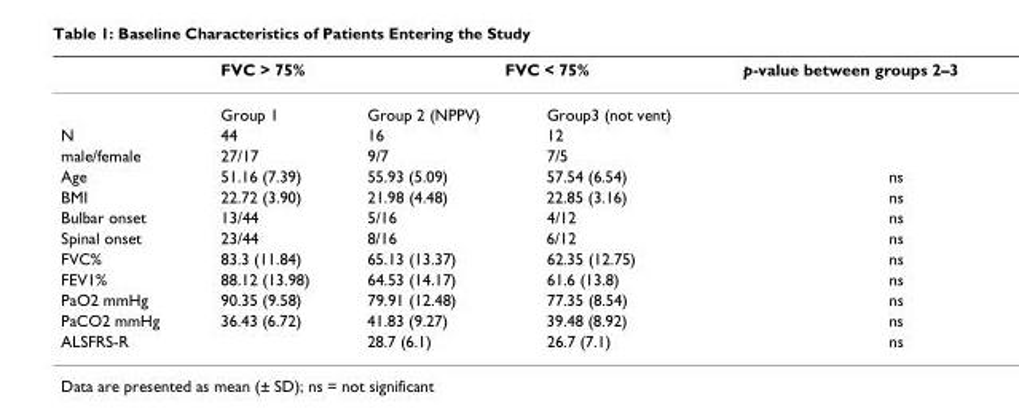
<table><thead><tr><td rowspan="2"></td><td rowspan="2">FVC &gt; 75% Group 1</td><td colspan="2">FVC &lt; 75%</td><td rowspan="2">p-value between groups 2–3</td></tr><tr><td>Group 2 (NPPV)</td><td>Group3 (not vent)</td></tr></thead><tbody><tr><td>N</td><td>44</td><td>16</td><td>12</td><td></td></tr><tr><td>male/female</td><td>27/17</td><td>9/7</td><td>7/5</td><td></td></tr><tr><td>Age</td><td>51.16 (7.39)</td><td>55.93 (5.09)</td><td>57.54 (6.54)</td><td>ns</td></tr><tr><td>BMI</td><td>22.72 (3.90)</td><td>21.98 (4.48)</td><td>22.85 (3.16)</td><td>ns</td></tr><tr><td>Bulbar onset</td><td>13/44</td><td>5/16</td><td>4/12</td><td>ns</td></tr><tr><td>Spinal onset</td><td>23/44</td><td>8/16</td><td>6/12</td><td>ns</td></tr><tr><td>FVC%</td><td>83.3 (11.84)</td><td>65.13 (13.37)</td><td>62.35 (12.75)</td><td>ns</td></tr><tr><td>FEV1%</td><td>88.12 (13.98)</td><td>64.53 (14.17)</td><td>61.6 (13.8)</td><td>ns</td></tr><tr><td>PaO2 mmHg</td><td>90.35 (9.58)</td><td>79.91 (12.48)</td><td>77.35 (8.54)</td><td>ns</td></tr><tr><td>PaCO2 mmHg</td><td>36.43 (6.72)</td><td>41.83 (9.27)</td><td>39.48 (8.92)</td><td>ns</td></tr><tr><td>ALSFRS-R</td><td></td><td>28.7 (6.1)</td><td>26.7 (7.1)</td><td>ns</td></tr></tbody></table>